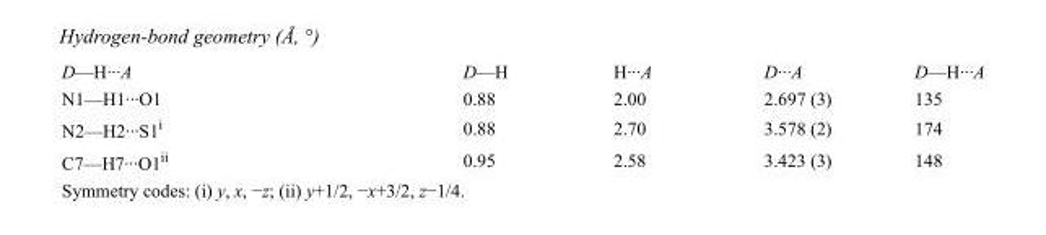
<table><tbody><tr><td>D—H···A</td><td>D—H</td><td>H···A</td><td>D···A</td><td>D—H···A</td></tr><tr><td>N1—H1···O1</td><td>0.88</td><td>2.00</td><td>2.697 (3)</td><td>135</td></tr><tr><td>N2—H2···S1<sup>i</sup></td><td>0.88</td><td>2.70</td><td>3.578 (2)</td><td>174</td></tr><tr><td>C7—H7···O1<sup>ii</sup></td><td>0.95</td><td>2.58</td><td>3.423 (3)</td><td>148</td></tr></tbody></table>